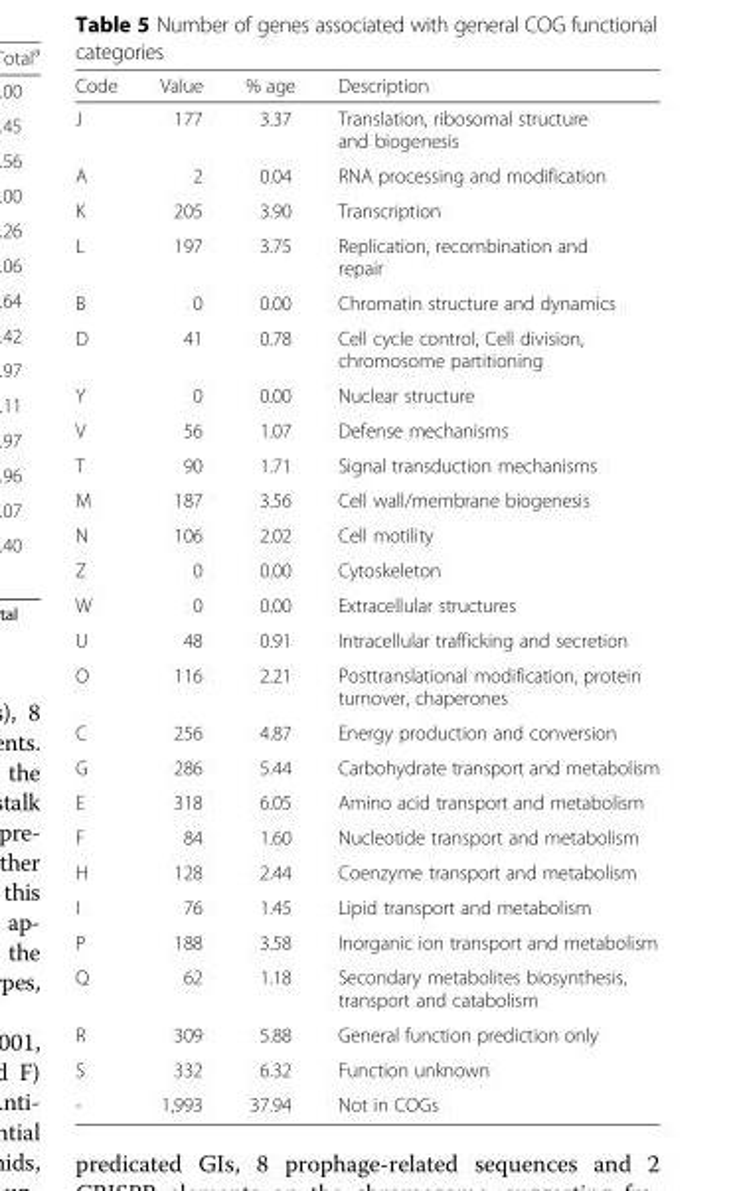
<table><thead><tr><td>Code</td><td>Value</td><td>% age</td><td>Description</td></tr></thead><tbody><tr><td>J</td><td>177</td><td>3.37</td><td>Translation, ribosomal structure and biogenesis</td></tr><tr><td>A</td><td>2</td><td>0.04</td><td>RNA processing and modification</td></tr><tr><td>K</td><td>205</td><td>3.90</td><td>Transcription</td></tr><tr><td>L</td><td>197</td><td>3.75</td><td>Replication, recombination and repair</td></tr><tr><td>B</td><td>0</td><td>0.00</td><td>Chromatin structure and dynamics</td></tr><tr><td>D</td><td>41</td><td>0.78</td><td>Cell cycle control, Cell division, chromosome partitioning</td></tr><tr><td>Y</td><td>0</td><td>0.00</td><td>Nuclear structure</td></tr><tr><td>V</td><td>56</td><td>1.07</td><td>Defense mechanisms</td></tr><tr><td>T</td><td>90</td><td>1.71</td><td>Signal transduction mechanisms</td></tr><tr><td>M</td><td>187</td><td>3.56</td><td>Cell wall/membrane biogenesis</td></tr><tr><td>N</td><td>106</td><td>2.02</td><td>Cell motility</td></tr><tr><td>Z</td><td>0</td><td>0.00</td><td>Cytoskeleton</td></tr><tr><td>W</td><td>0</td><td>0.00</td><td>Extracellular structures</td></tr><tr><td>U</td><td>48</td><td>0.91</td><td>Intracellular trafficking and secretion</td></tr><tr><td>O</td><td>116</td><td>2.21</td><td>Posttranslational modification, protein turnover, chaperones</td></tr><tr><td>C</td><td>256</td><td>4.87</td><td>Energy production and conversion</td></tr><tr><td>G</td><td>286</td><td>5.44</td><td>Carbohydrate transport and metabolism</td></tr><tr><td>E</td><td>318</td><td>6.05</td><td>Amino acid transport and metabolism</td></tr><tr><td>F</td><td>84</td><td>1.60</td><td>Nucleotide transport and metabolism</td></tr><tr><td>H</td><td>128</td><td>2.44</td><td>Coenzyme transport and metabolism</td></tr><tr><td>I</td><td>76</td><td>1.45</td><td>Lipid transport and metabolism</td></tr><tr><td>P</td><td>188</td><td>3.58</td><td>Inorganic ion transport and metabolism</td></tr><tr><td>Q</td><td>62</td><td>1.18</td><td>Secondary metabolites biosynthesis, transport and catabolism</td></tr><tr><td>R</td><td>309</td><td>5.88</td><td>General function prediction only</td></tr><tr><td>S</td><td>332</td><td>6.32</td><td>Function unknown</td></tr><tr><td>-</td><td>1,993</td><td>37.94</td><td>Not in COGs</td></tr></tbody></table>